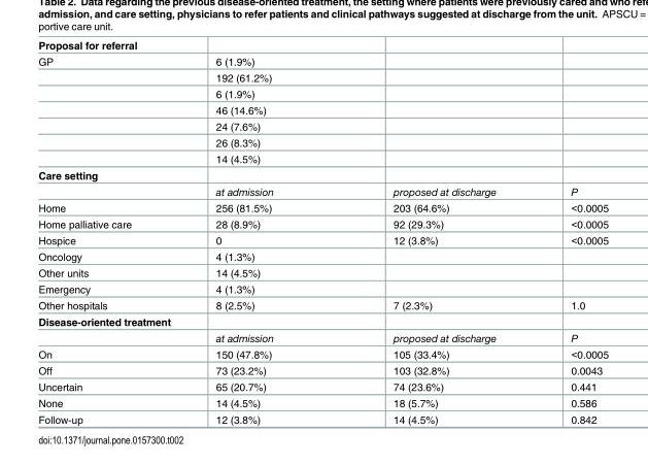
<table><tbody><tr><td colspan="4">Proposal for referral</td></tr><tr><td rowspan="7">GP</td><td>6 (1.9%)</td><td></td><td></td></tr><tr><td>192 (61.2%)</td><td></td><td></td></tr><tr><td>6 (1.9%)</td><td></td><td></td></tr><tr><td>46 (14.6%)</td><td></td><td></td></tr><tr><td>24 (7.6%)</td><td></td><td></td></tr><tr><td>26 (8.3%)</td><td></td><td></td></tr><tr><td>14 (4.5%)</td><td></td><td></td></tr><tr><td colspan="4">Care setting</td></tr><tr><td></td><td>at admission</td><td>proposed at discharge</td><td>P</td></tr><tr><td>Home</td><td>256 (81.5%)</td><td>203 (64.6%)</td><td>&lt;0.0005</td></tr><tr><td>Home palliative care</td><td>28 (8.9%)</td><td>92 (29.3%)</td><td>&lt;0.0005</td></tr><tr><td>Hospice</td><td>0</td><td>12 (3.8%)</td><td>&lt;0.0005</td></tr><tr><td>Oncology</td><td>4 (1.3%)</td><td></td><td></td></tr><tr><td>Other units</td><td>14 (4.5%)</td><td></td><td></td></tr><tr><td>Emergency</td><td>4 (1.3%)</td><td></td><td></td></tr><tr><td>Other hospitals</td><td>8 (2.5%)</td><td>7 (2.3%)</td><td>1.0</td></tr><tr><td colspan="4">Disease-oriented treatment</td></tr><tr><td></td><td>at admission</td><td>proposed at discharge</td><td>P</td></tr><tr><td>On</td><td>150 (47.8%)</td><td>105 (33.4%)</td><td>&lt;0.0005</td></tr><tr><td>Off</td><td>73 (23.2%)</td><td>103 (32.8%)</td><td>0.0043</td></tr><tr><td>Uncertain</td><td>65 (20.7%)</td><td>74 (23.6%)</td><td>0.441</td></tr><tr><td>None</td><td>14 (4.5%)</td><td>18 (5.7%)</td><td>0.586</td></tr><tr><td>Follow-up</td><td>12 (3.8%)</td><td>14 (4.5%)</td><td>0.842</td></tr></tbody></table>